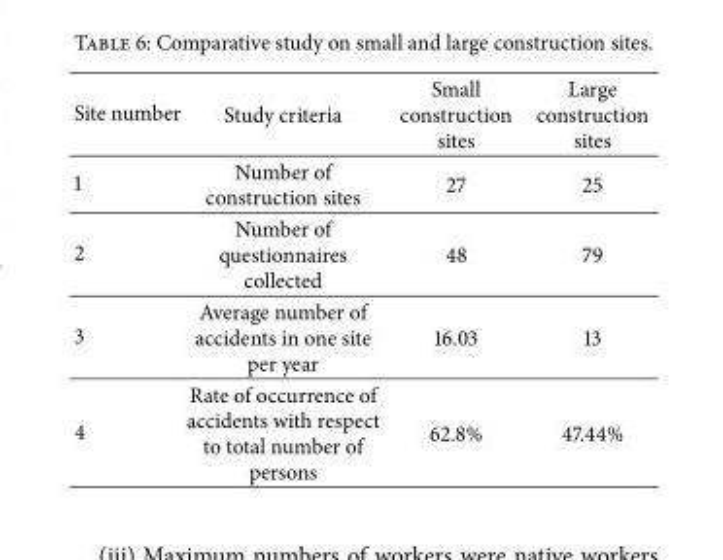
<table><thead><tr><td>Site number</td><td>Study criteria</td><td>Small construction sites</td><td>Large construction sites</td></tr></thead><tbody><tr><td>1</td><td>Number of construction sites</td><td>27</td><td>25</td></tr><tr><td>2</td><td>Number of questionnaires collected</td><td>48</td><td>79</td></tr><tr><td>3</td><td>Average number of accidents in one site per year</td><td>16.03</td><td>13</td></tr><tr><td>4</td><td>Rate of occurrence of accidents with respect to total number of persons</td><td>62.8%</td><td>47.44%</td></tr></tbody></table>